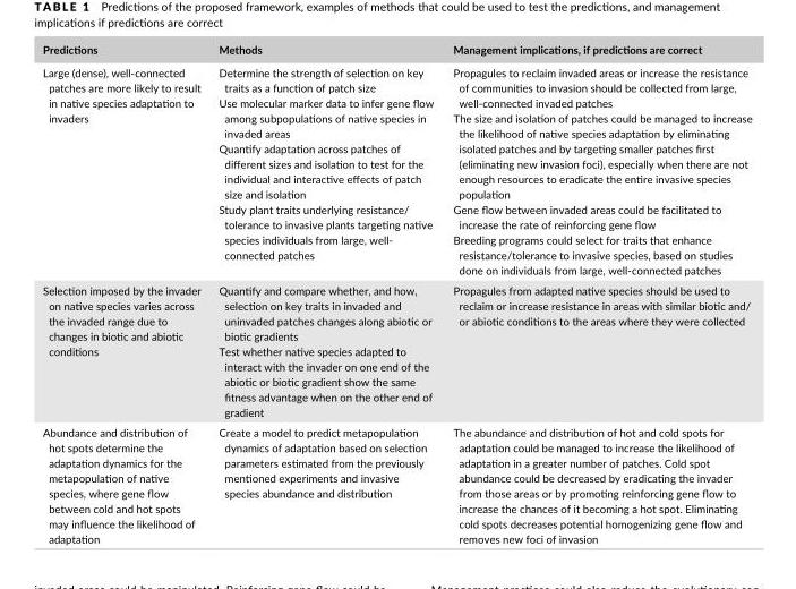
<table><thead><tr><td>Predictions</td><td>Methods</td><td>Management implications, if predictions are correct</td></tr></thead><tbody><tr><td>Large (dense), well- connected patches are more likely to result in native species adaptation to invaders</td><td>Determine the strength of selection on key traits as a function of patch size Use molecular marker data to infer gene flow among subpopulations of native species in invaded areas Quantify adaptation across patches of different sizes and isolation to test for the individual and interactive effects of patch size and isolation Study plant traits underlying resistance/ tolerance to invasive plants targeting native species individuals from large, well- connected patches</td><td>Propagules to reclaim invaded areas or increase the resistance of communities to invasion should be collected from large, well- connected invaded patches The size and isolation of patches could be managed to increase the likelihood of native species adaptation by eliminating isolated patches and by targeting smaller patches first (eliminating new invasion foci), especially when there are not enough resources to eradicate the entire invasive species population Gene flow between invaded areas could be facilitated to increase the rate of reinforcing gene flow Breeding programs could select for traits that enhance resistance/tolerance to invasive species, based on studies done on individuals from large, well- connected patches</td></tr><tr><td>Selection imposed by the invader on native species varies across the invaded range due to changes in biotic and abiotic conditions</td><td>Quantify and compare whether, and how, selection on key traits in invaded and uninvaded patches changes along abiotic or biotic gradients Test whether native species adapted to interact with the invader on one end of the abiotic or biotic gradient show the same fitness advantage when on the other end of gradient</td><td>Propagules from adapted native species should be used to reclaim or increase resistance in areas with similar biotic and/ or abiotic conditions to the areas where they were collected</td></tr><tr><td>Abundance and distribution of hot spots determine the adaptation dynamics for the metapopulation of native species, where gene flow between cold and hot spots may influence the likelihood of adaptation</td><td>Create a model to predict metapopulation dynamics of adaptation based on selection parameters estimated from the previously mentioned experiments and invasive species abundance and distribution</td><td>The abundance and distribution of hot and cold spots for adaptation could be managed to increase the likelihood of adaptation in a greater number of patches. Cold spot abundance could be decreased by eradicating the invader from those areas or by promoting reinforcing gene flow to increase the chances of it becoming a hot spot. Eliminating cold spots decreases potential homogenizing gene flow and removes new foci of invasion</td></tr></tbody></table>